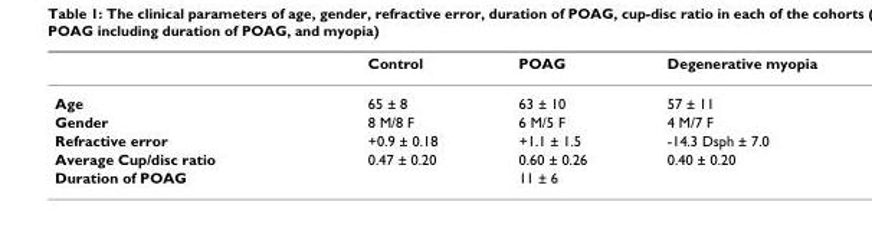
<table><thead><tr><td></td><td>Control</td><td>POAG</td><td>Degenerative myopia</td></tr></thead><tbody><tr><td>Age</td><td>65 ± 8</td><td>63 ± 10</td><td>57 ± 11</td></tr><tr><td>Gender</td><td>8 M/8 F</td><td>6 M/5 F</td><td>4 M/7 F</td></tr><tr><td>Refractive error</td><td>+0.9 ± 0.18</td><td>+1.1 ± 1.5</td><td>-14.3 Dsph ± 7.0</td></tr><tr><td>Average Cup/disc ratio</td><td>0.47 ± 0.20</td><td>0.60 ± 0.26</td><td>0.40 ± 0.20</td></tr><tr><td>Duration of POAG</td><td></td><td>11 ± 6</td><td></td></tr></tbody></table>